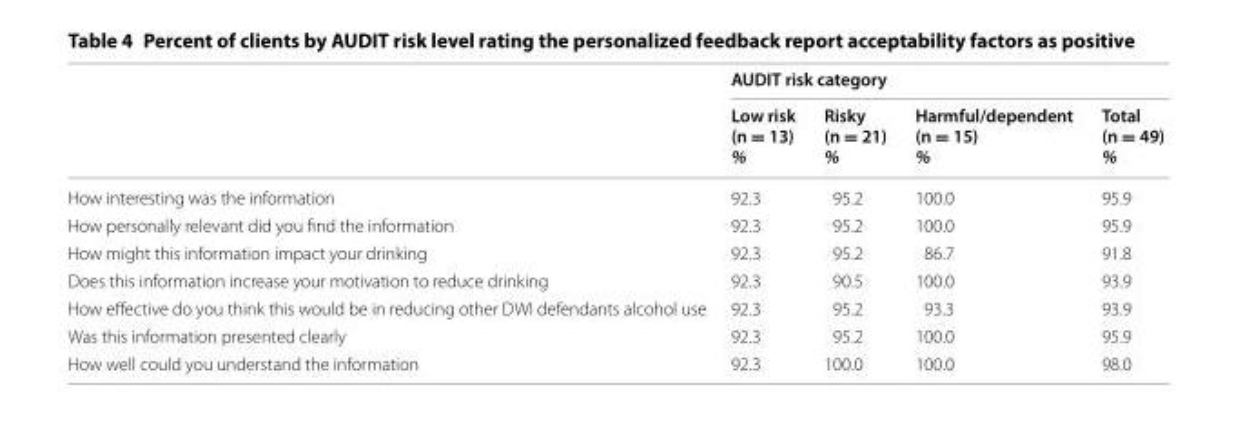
<table><thead><tr><td rowspan="2"></td><td colspan="4">AUDIT risk category</td></tr><tr><td>Low risk (n = 13) %</td><td>Risky (n = 21) %</td><td>Harmful/dependent (n = 15) %</td><td>Total (n = 49) %</td></tr></thead><tbody><tr><td>How interesting was the information</td><td>92.3</td><td>95.2</td><td>100.0</td><td>95.9</td></tr><tr><td>How personally relevant did you find the information</td><td>92.3</td><td>95.2</td><td>100.0</td><td>95.9</td></tr><tr><td>How might this information impact your drinking</td><td>92.3</td><td>95.2</td><td>86.7</td><td>91.8</td></tr><tr><td>Does this information increase your motivation to reduce drinking</td><td>92.3</td><td>90.5</td><td>100.0</td><td>93.9</td></tr><tr><td>How effective do you think this would be in reducing other DWI defendants alcohol use</td><td>92.3</td><td>95.2</td><td>93.3</td><td>93.9</td></tr><tr><td>Was this information presented clearly</td><td>92.3</td><td>95.2</td><td>100.0</td><td>95.9</td></tr><tr><td>How well could you understand the information</td><td>92.3</td><td>100.0</td><td>100.0</td><td>98.0</td></tr></tbody></table>